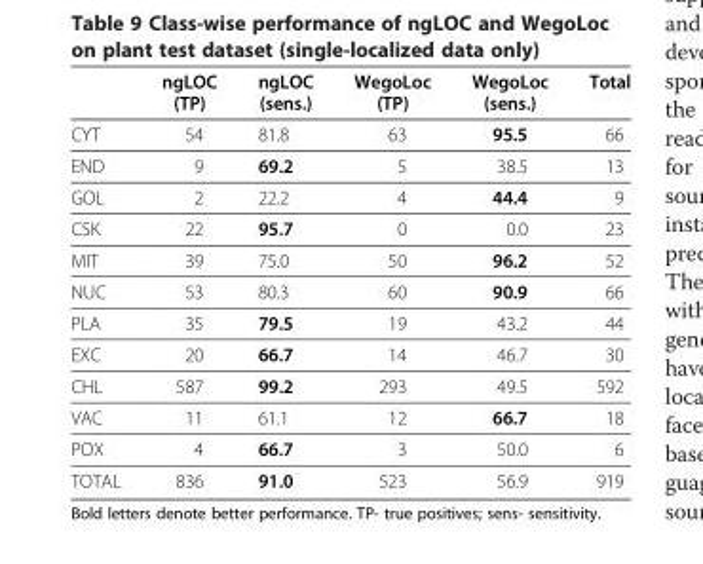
<table><thead><tr><td></td><td>ngLOC (TP)</td><td>ngLOC (sens.)</td><td>WegoLoc (TP)</td><td>WegoLoc (sens.)</td><td>Total</td></tr></thead><tbody><tr><td>CYT</td><td>54</td><td>81.8</td><td>63</td><td>95.5</td><td>66</td></tr><tr><td>END</td><td>9</td><td>69.2</td><td>5</td><td>38.5</td><td>13</td></tr><tr><td>GOL</td><td>2</td><td>22.2</td><td>4</td><td>44.4</td><td>9</td></tr><tr><td>CSK</td><td>22</td><td>95.7</td><td>0</td><td>0.0</td><td>23</td></tr><tr><td>MIT</td><td>39</td><td>75.0</td><td>50</td><td>96.2</td><td>52</td></tr><tr><td>NUC</td><td>53</td><td>80.3</td><td>60</td><td>90.9</td><td>66</td></tr><tr><td>PLA</td><td>35</td><td>79.5</td><td>19</td><td>43.2</td><td>44</td></tr><tr><td>EXC</td><td>20</td><td>66.7</td><td>14</td><td>46.7</td><td>30</td></tr><tr><td>CHL</td><td>587</td><td>99.2</td><td>293</td><td>49.5</td><td>592</td></tr><tr><td>VAC</td><td>11</td><td>61.1</td><td>12</td><td>66.7</td><td>18</td></tr><tr><td>POX</td><td>4</td><td>66.7</td><td>3</td><td>50.0</td><td>6</td></tr><tr><td>TOTAL</td><td>836</td><td>91.0</td><td>523</td><td>56.9</td><td>919</td></tr></tbody></table>